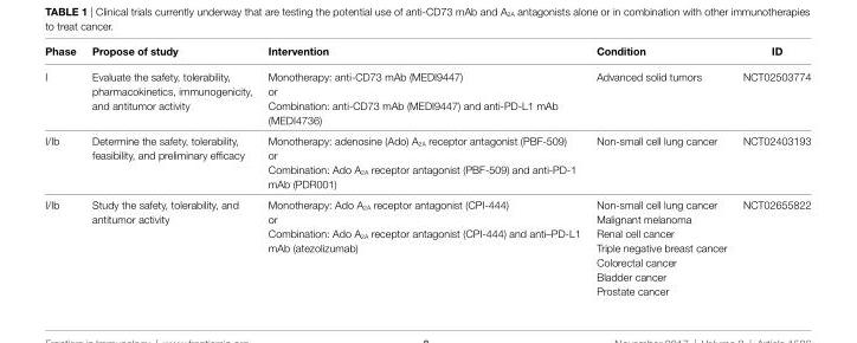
<table><thead><tr><td>Phase</td><td>Propose of study</td><td>intervention</td><td>Condition</td><td>iD</td></tr></thead><tbody><tr><td>I</td><td>Evaluate the safety, tolerability, pharmacokinetics, immunogenicity, and antitumor activity</td><td>Monotherapy: anti-CD73 mAb (MEDI9447) or Combination: anti-CD73 mAb (MEDI9447) and anti-PD-L1 mAb (MEDI4736)</td><td>Advanced solid tumors</td><td>NCT02503774</td></tr><tr><td>I/Ib</td><td>Determine the safety, tolerability, feasibility, and preliminary efficacy</td><td>Monotherapy: adenosine (Ado) A<sub>2A</sub> receptor antagonist (PBF-509) or Combination: Ado A<sub>2A</sub> receptor antagonist (PBF-509) and anti-PD-1 mAb (PDR001)</td><td>Non-small cell lung cancer</td><td>NCT02403193</td></tr><tr><td>I/Ib</td><td>Study the safety, tolerability, and antitumor activity</td><td>Monotherapy: Ado A<sub>2A</sub> receptor antagonist (CPI-444) or Combination: Ado A<sub>2A</sub> receptor antagonist (CPI-444) and anti–PD-L1 mAb (atezolizumab)</td><td>Non-small cell lung cancer Malignant melanoma Renal cell cancer Triple negative breast cancer Colorectal cancer Bladder cancer Prostate cancer</td><td>NCT02655822</td></tr></tbody></table>